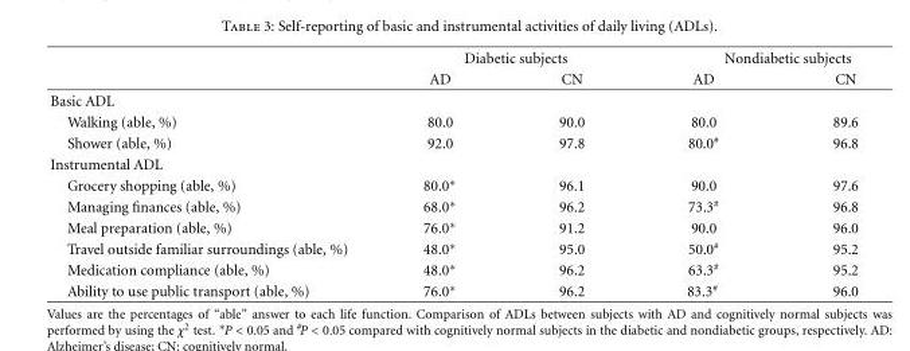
<table><thead><tr><td rowspan="2"></td><td colspan="2">Diabetic subjects</td><td colspan="2">Nondiabetic subjects</td></tr><tr><td>AD</td><td>CN</td><td>AD</td><td>CN</td></tr></thead><tbody><tr><td colspan="5">Basic ADL</td></tr><tr><td>Walking (able, %)</td><td>80.0</td><td>90.0</td><td>80.0</td><td>89.6</td></tr><tr><td>Shower (able, %)</td><td>92.0</td><td>97.8</td><td>80.0<sup>#</sup></td><td>96.8</td></tr><tr><td colspan="5">Instrumental ADL</td></tr><tr><td>Grocery shopping (able, %)</td><td>80.0∗</td><td>96.1</td><td>90.0</td><td>97.6</td></tr><tr><td>Managing finances (able, %)</td><td>68.0∗</td><td>96.2</td><td>73.3<sup>#</sup></td><td>96.8</td></tr><tr><td>Meal preparation (able, %)</td><td>76.0∗</td><td>91.2</td><td>90.0</td><td>96.0</td></tr><tr><td>Travel outside familiar surroundings (able, %)</td><td>48.0∗</td><td>95.0</td><td>50.0<sup>#</sup></td><td>95.2</td></tr><tr><td>Medication compliance (able, %)</td><td>48.0∗</td><td>96.2</td><td>63.3<sup>#</sup></td><td>95.2</td></tr><tr><td>Ability to use public transport (able, %)</td><td>76.0∗</td><td>96.2</td><td>83.3<sup>#</sup></td><td>96.0</td></tr></tbody></table>